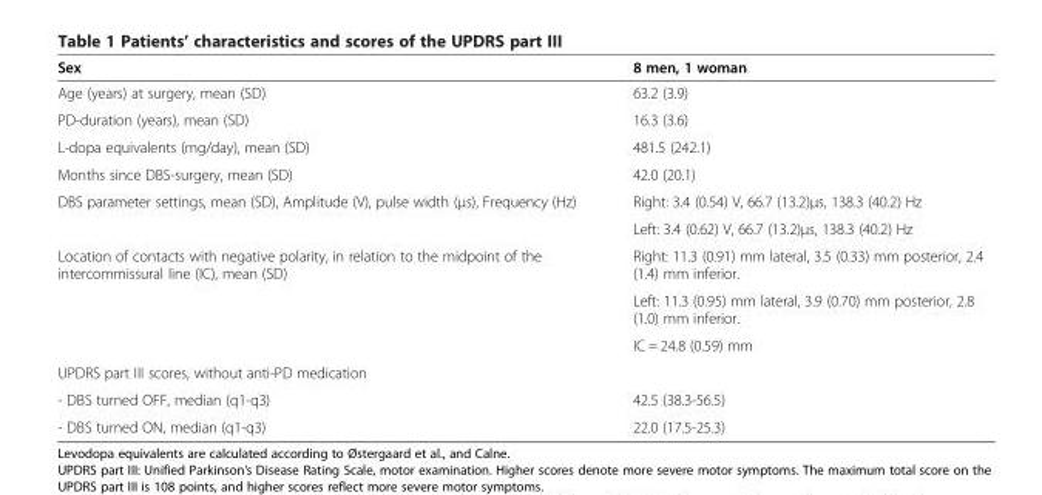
<table><thead><tr><td>Sex</td><td>8 men, 1 woman</td></tr></thead><tbody><tr><td>Age (years) at surgery, mean (SD)</td><td>63.2 (3.9)</td></tr><tr><td>PD-duration (years), mean (SD)</td><td>16.3 (3.6)</td></tr><tr><td>L-dopa equivalents (mg/day), mean (SD)</td><td>481.5 (242.1)</td></tr><tr><td>Months since DBS-surgery, mean (SD)</td><td>42.0 (20.1)</td></tr><tr><td rowspan="2">DBS parameter settings, mean (SD), Amplitude (V), pulse width (μs), Frequency (Hz)</td><td>Right: 3.4 (0.54) V, 66.7 (13.2)μs, 138.3 (40.2) Hz</td></tr><tr><td>Left: 3.4 (0.62) V, 66.7 (13.2)μs, 138.3 (40.2) Hz</td></tr><tr><td rowspan="3">Location of contacts with negative polarity, in relation to the midpoint of the intercommissural line (IC), mean (SD)</td><td>Right: 11.3 (0.91) mm lateral, 3.5 (0.33) mm posterior, 2.4 (1.4) mm inferior.</td></tr><tr><td>Left: 11.3 (0.95) mm lateral, 3.9 (0.70) mm posterior, 2.8 (1.0) mm inferior.</td></tr><tr><td>IC = 24.8 (0.59) mm</td></tr><tr><td colspan="2">UPDRS part III scores, without anti-PD medication</td></tr><tr><td>- DBS turned OFF, median (q1-q3)</td><td>42.5 (38.3-56.5)</td></tr><tr><td>- DBS turned ON, median (q1-q3)</td><td>22.0 (17.5-25.3)</td></tr></tbody></table>